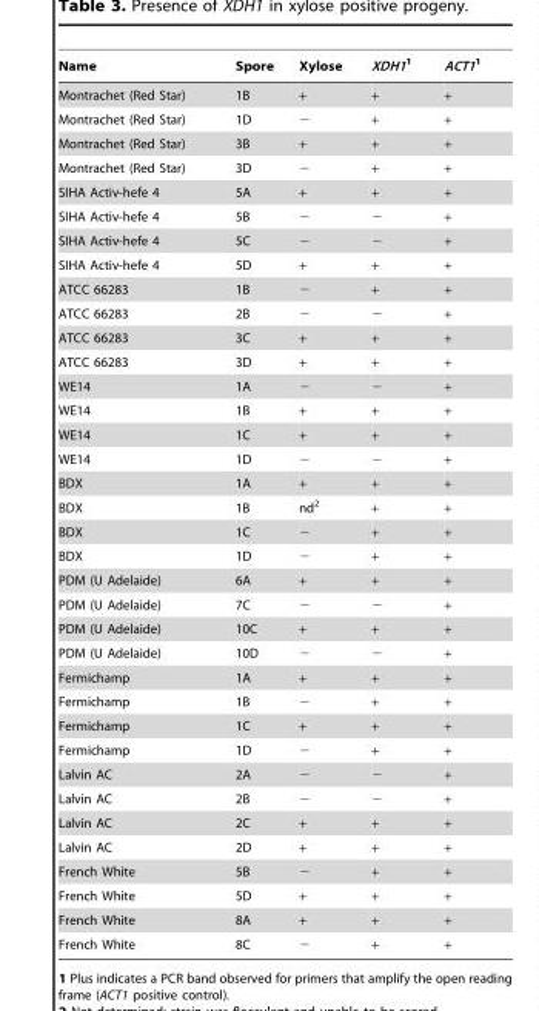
<table><thead><tr><td>Name</td><td>Spore</td><td>Xylose</td><td>XDH11</td><td>ACT11</td></tr></thead><tbody><tr><td>Montrachet (Red Star)</td><td>1B</td><td>+</td><td>+</td><td>+</td></tr><tr><td>Montrachet (Red Star)</td><td>1D</td><td>−</td><td>+</td><td>+</td></tr><tr><td>Montrachet (Red Star)</td><td>3B</td><td>+</td><td>+</td><td>+</td></tr><tr><td>Montrachet (Red Star)</td><td>3D</td><td>−</td><td>+</td><td>+</td></tr><tr><td>SIHA Activ-hefe 4</td><td>5A</td><td>+</td><td>+</td><td>+</td></tr><tr><td>SIHA Activ-hefe 4</td><td>5B</td><td>−</td><td>−</td><td>+</td></tr><tr><td>SIHA Activ-hefe 4</td><td>5C</td><td>−</td><td>−</td><td>+</td></tr><tr><td>SIHA Activ-hefe 4</td><td>5D</td><td>+</td><td>+</td><td>+</td></tr><tr><td>ATCC 66283</td><td>1B</td><td>−</td><td>+</td><td>+</td></tr><tr><td>ATCC 66283</td><td>2B</td><td>−</td><td>−</td><td>+</td></tr><tr><td>ATCC 66283</td><td>3C</td><td>+</td><td>+</td><td>+</td></tr><tr><td>ATCC 66283</td><td>3D</td><td>+</td><td>+</td><td>+</td></tr><tr><td>WE14</td><td>1A</td><td>−</td><td>−</td><td>+</td></tr><tr><td>WE14</td><td>1B</td><td>+</td><td>+</td><td>+</td></tr><tr><td>WE14</td><td>1C</td><td>+</td><td>+</td><td>+</td></tr><tr><td>WE14</td><td>1D</td><td>−</td><td>−</td><td>+</td></tr><tr><td>BDX</td><td>1A</td><td>+</td><td>+</td><td>+</td></tr><tr><td>BDX</td><td>1B</td><td>nd<sup>2</sup></td><td>+</td><td>+</td></tr><tr><td>BDX</td><td>1C</td><td>−</td><td>+</td><td>+</td></tr><tr><td>BDX</td><td>1D</td><td>−</td><td>+</td><td>+</td></tr><tr><td>PDM (U Adelaide)</td><td>6A</td><td>+</td><td>+</td><td>+</td></tr><tr><td>PDM (U Adelaide)</td><td>7C</td><td>−</td><td>−</td><td>+</td></tr><tr><td>PDM (U Adelaide)</td><td>10C</td><td>+</td><td>+</td><td>+</td></tr><tr><td>PDM (U Adelaide)</td><td>10D</td><td>−</td><td>−</td><td>+</td></tr><tr><td>Fermichamp</td><td>1A</td><td>+</td><td>+</td><td>+</td></tr><tr><td>Fermichamp</td><td>1B</td><td>−</td><td>+</td><td>+</td></tr><tr><td>Fermichamp</td><td>1C</td><td>+</td><td>+</td><td>+</td></tr><tr><td>Fermichamp</td><td>1D</td><td>−</td><td>+</td><td>+</td></tr><tr><td>Lalvin AC</td><td>2A</td><td>−</td><td>−</td><td>+</td></tr><tr><td>Lalvin AC</td><td>2B</td><td>−</td><td>−</td><td>+</td></tr><tr><td>Lalvin AC</td><td>2C</td><td>+</td><td>+</td><td>+</td></tr><tr><td>Lalvin AC</td><td>2D</td><td>+</td><td>+</td><td>+</td></tr><tr><td>French White</td><td>5B</td><td>−</td><td>+</td><td>+</td></tr><tr><td>French White</td><td>5D</td><td>+</td><td>+</td><td>+</td></tr><tr><td>French White</td><td>8A</td><td>+</td><td>+</td><td>+</td></tr><tr><td>French White</td><td>8C</td><td>−</td><td>+</td><td>+</td></tr></tbody></table>